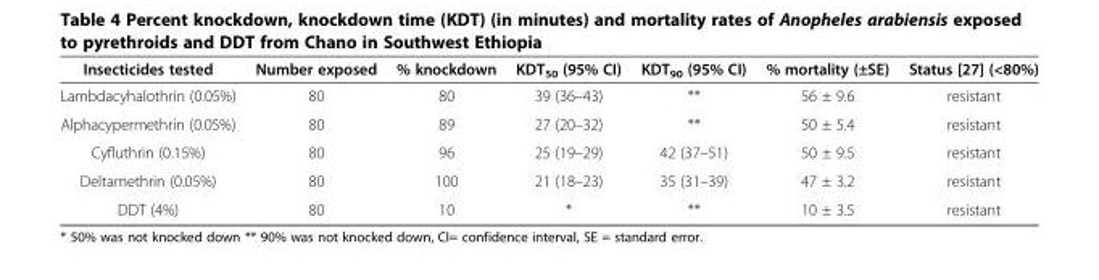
<table><thead><tr><td>Insecticides tested</td><td>Number exposed</td><td>% knockdown</td><td>KDT<sub>50</sub> (95% CI)</td><td>KDT<sub>90</sub> (95% CI)</td><td>% mortality (±SE)</td><td>Status [27] (&lt;80%)</td></tr></thead><tbody><tr><td>Lambdacyhalothrin (0.05%)</td><td>80</td><td>80</td><td>39 (36–43)</td><td>**</td><td>56 ± 9.6</td><td>resistant</td></tr><tr><td>Alphacypermethrin (0.05%)</td><td>80</td><td>89</td><td>27 (20–32)</td><td>**</td><td>50 ± 5.4</td><td>resistant</td></tr><tr><td>Cyfluthrin (0.15%)</td><td>80</td><td>96</td><td>25 (19–29)</td><td>42 (37–51)</td><td>50 ± 9.5</td><td>resistant</td></tr><tr><td>Deltamethrin (0.05%)</td><td>80</td><td>100</td><td>21 (18–23)</td><td>35 (31–39)</td><td>47 ± 3.2</td><td>resistant</td></tr><tr><td>DDT (4%)</td><td>80</td><td>10</td><td>*</td><td>**</td><td>10 ± 3.5</td><td>resistant</td></tr></tbody></table>